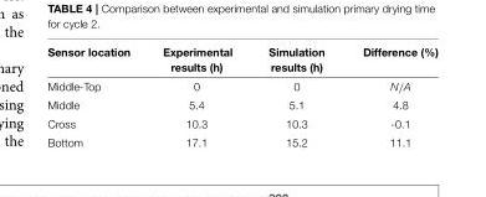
<table><thead><tr><td>Sensor location</td><td>Experimental results (h)</td><td>Simulation results (h)</td><td>Difference (%)</td></tr></thead><tbody><tr><td>Middle-Top</td><td>0</td><td>0</td><td>N/A</td></tr><tr><td>Middle</td><td>5.4</td><td>5.1</td><td>4.8</td></tr><tr><td>Cross</td><td>10.3</td><td>10.3</td><td>-0.1</td></tr><tr><td>Bottom</td><td>17.1</td><td>15.2</td><td>11.1</td></tr></tbody></table>